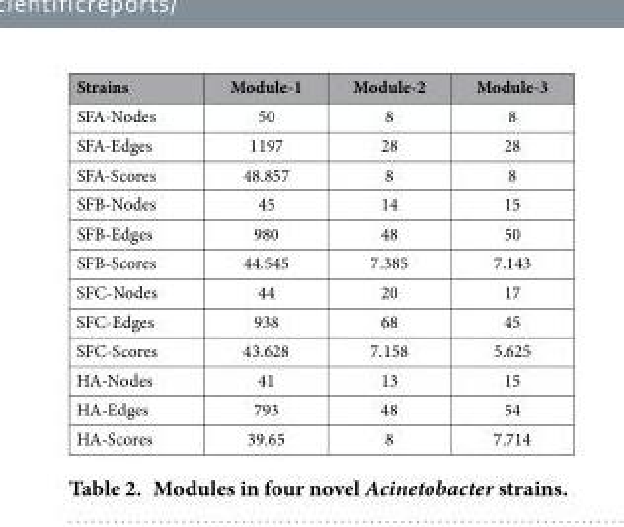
<table><thead><tr><td>Strains</td><td>Module-1</td><td>Module-2</td><td>Module-3</td></tr></thead><tbody><tr><td>SFA-Nodes</td><td>50</td><td>8</td><td>8</td></tr><tr><td>SFA-Edges</td><td>1197</td><td>28</td><td>28</td></tr><tr><td>SFA-Scores</td><td>48.857</td><td>8</td><td>8</td></tr><tr><td>SFB-Nodes</td><td>45</td><td>14</td><td>15</td></tr><tr><td>SFB-Edges</td><td>980</td><td>48</td><td>50</td></tr><tr><td>SFB-Scores</td><td>44.545</td><td>7.385</td><td>7.143</td></tr><tr><td>SFC-Nodes</td><td>44</td><td>20</td><td>17</td></tr><tr><td>SFC-Edges</td><td>938</td><td>68</td><td>45</td></tr><tr><td>SFC-Scores</td><td>43.628</td><td>7.158</td><td>5.625</td></tr><tr><td>HA-Nodes</td><td>41</td><td>13</td><td>15</td></tr><tr><td>HA-Edges</td><td>793</td><td>48</td><td>54</td></tr><tr><td>HA-Scores</td><td>39.65</td><td>8</td><td>7.714</td></tr></tbody></table>